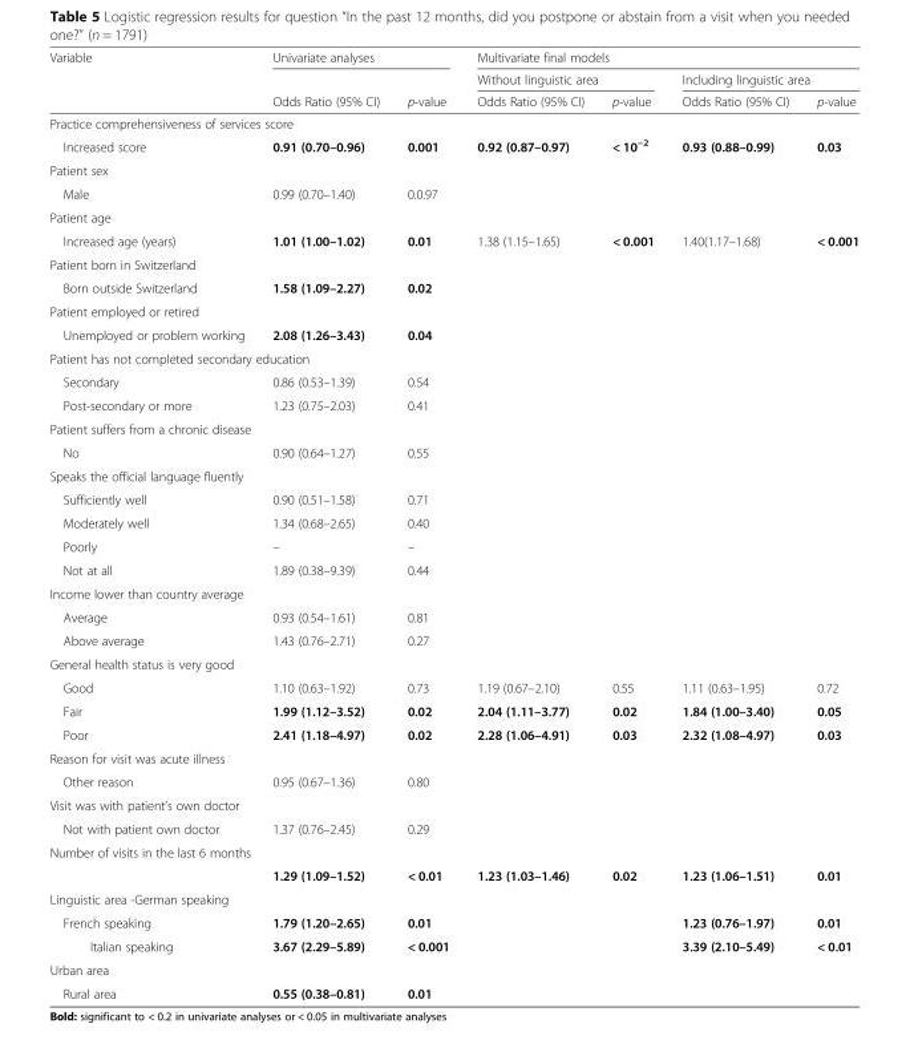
<table><thead><tr><td rowspan="3">Variable</td><td colspan="2">Univariate analyses</td><td colspan="4">Multivariate final models</td></tr><tr><td rowspan="2">Odds Ratio (95% CI)</td><td rowspan="2">p-value</td><td colspan="2">Without linguistic area</td><td colspan="2">Including linguistic area</td></tr><tr><td>Odds Ratio (95% CI)</td><td>p-value</td><td>Odds Ratio (95% CI)</td><td>p-value</td></tr></thead><tbody><tr><td colspan="7">Practice comprehensiveness of services score</td></tr><tr><td>Increased score</td><td>0.91 (0.70–0.96)</td><td>0.001</td><td>0.92 (0.87–0.97)</td><td>&lt; 10<sup>−2</sup></td><td>0.93 (0.88–0.99)</td><td>0.03</td></tr><tr><td colspan="7">Patient sex</td></tr><tr><td>Male</td><td>0.99 (0.70–1.40)</td><td>0.0.97</td><td></td><td></td><td></td><td></td></tr><tr><td colspan="7">Patient age</td></tr><tr><td>Increased age (years)</td><td>1.01 (1.00–1.02)</td><td>0.01</td><td>1.38 (1.15–1.65)</td><td>&lt; 0.001</td><td>1.40(1.17–1.68)</td><td>&lt; 0.001</td></tr><tr><td colspan="7">Patient born in Switzerland</td></tr><tr><td>Born outside Switzerland</td><td>1.58 (1.09–2.27)</td><td>0.02</td><td></td><td></td><td></td><td></td></tr><tr><td colspan="7">Patient employed or retired</td></tr><tr><td>Unemployed or problem working</td><td>2.08 (1.26–3.43)</td><td>0.04</td><td></td><td></td><td></td><td></td></tr><tr><td colspan="7">Patient has not completed secondary education</td></tr><tr><td>Secondary</td><td>0.86 (0.53–1.39)</td><td>0.54</td><td></td><td></td><td></td><td></td></tr><tr><td>Post-secondary or more</td><td>1.23 (0.75–2.03)</td><td>0.41</td><td></td><td></td><td></td><td></td></tr><tr><td colspan="7">Patient suffers from a chronic disease</td></tr><tr><td>No</td><td>0.90 (0.64–1.27)</td><td>0.55</td><td></td><td></td><td></td><td></td></tr><tr><td colspan="7">Speaks the official language fluently</td></tr><tr><td>Sufficiently well</td><td>0.90 (0.51–1.58)</td><td>0.71</td><td></td><td></td><td></td><td></td></tr><tr><td>Moderately well</td><td>1.34 (0.68–2.65)</td><td>0.40</td><td></td><td></td><td></td><td></td></tr><tr><td>Poorly</td><td>–</td><td>–</td><td></td><td></td><td></td><td></td></tr><tr><td>Not at all</td><td>1.89 (0.38–9.39)</td><td>0.44</td><td></td><td></td><td></td><td></td></tr><tr><td colspan="7">Income lower than country average</td></tr><tr><td>Average</td><td>0.93 (0.54–1.61)</td><td>0.81</td><td></td><td></td><td></td><td></td></tr><tr><td>Above average</td><td>1.43 (0.76–2.71)</td><td>0.27</td><td></td><td></td><td></td><td></td></tr><tr><td colspan="7">General health status is very good</td></tr><tr><td>Good</td><td>1.10 (0.63–1.92)</td><td>0.73</td><td>1.19 (0.67–2.10)</td><td>0.55</td><td>1.11 (0.63–1.95)</td><td>0.72</td></tr><tr><td>Fair</td><td>1.99 (1.12–3.52)</td><td>0.02</td><td>2.04 (1.11–3.77)</td><td>0.02</td><td>1.84 (1.00–3.40)</td><td>0.05</td></tr><tr><td>Poor</td><td>2.41 (1.18–4.97)</td><td>0.02</td><td>2.28 (1.06–4.91)</td><td>0.03</td><td>2.32 (1.08–4.97)</td><td>0.03</td></tr><tr><td colspan="7">Reason for visit was acute illness</td></tr><tr><td>Other reason</td><td>0.95 (0.67–1.36)</td><td>0.80</td><td></td><td></td><td></td><td></td></tr><tr><td colspan="7">Visit was with patient’s own doctor</td></tr><tr><td>Not with patient own doctor</td><td>1.37 (0.76–2.45)</td><td>0.29</td><td></td><td></td><td></td><td></td></tr><tr><td colspan="7">Number of visits in the last 6 months</td></tr><tr><td></td><td>1.29 (1.09–1.52)</td><td>&lt; 0.01</td><td>1.23 (1.03–1.46)</td><td>0.02</td><td>1.23 (1.06–1.51)</td><td>0.01</td></tr><tr><td colspan="7">Linguistic area -German speaking</td></tr><tr><td>French speaking</td><td>1.79 (1.20–2.65)</td><td>0.01</td><td colspan="2"></td><td>1.23 (0.76–1.97)</td><td>0.01</td></tr><tr><td>Italian speaking</td><td>3.67 (2.29–5.89)</td><td>&lt; 0.001</td><td colspan="2"></td><td>3.39 (2.10–5.49)</td><td>&lt; 0.01</td></tr><tr><td colspan="7">Urban area</td></tr><tr><td>Rural area</td><td>0.55 (0.38–0.81)</td><td>0.01</td><td colspan="2"></td><td></td><td></td></tr></tbody></table>